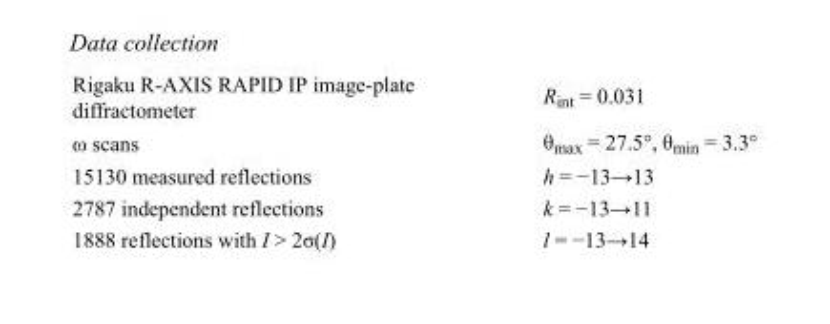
<table><tbody><tr><td>Rigaku R-AXIS RAPID IP image-plate diffractometer</td><td>R<sub>int</sub> = 0.031</td></tr><tr><td>ω scans</td><td>θ<sub>max</sub> = 27.5°, θ<sub>min</sub> = 3.3°</td></tr><tr><td>15130 measured reflections</td><td>h = −13→13</td></tr><tr><td>2787 independent reflections</td><td>k = −13→11</td></tr><tr><td>1888 reflections with I &gt; 2σ(I)</td><td>l = −13→14</td></tr></tbody></table>